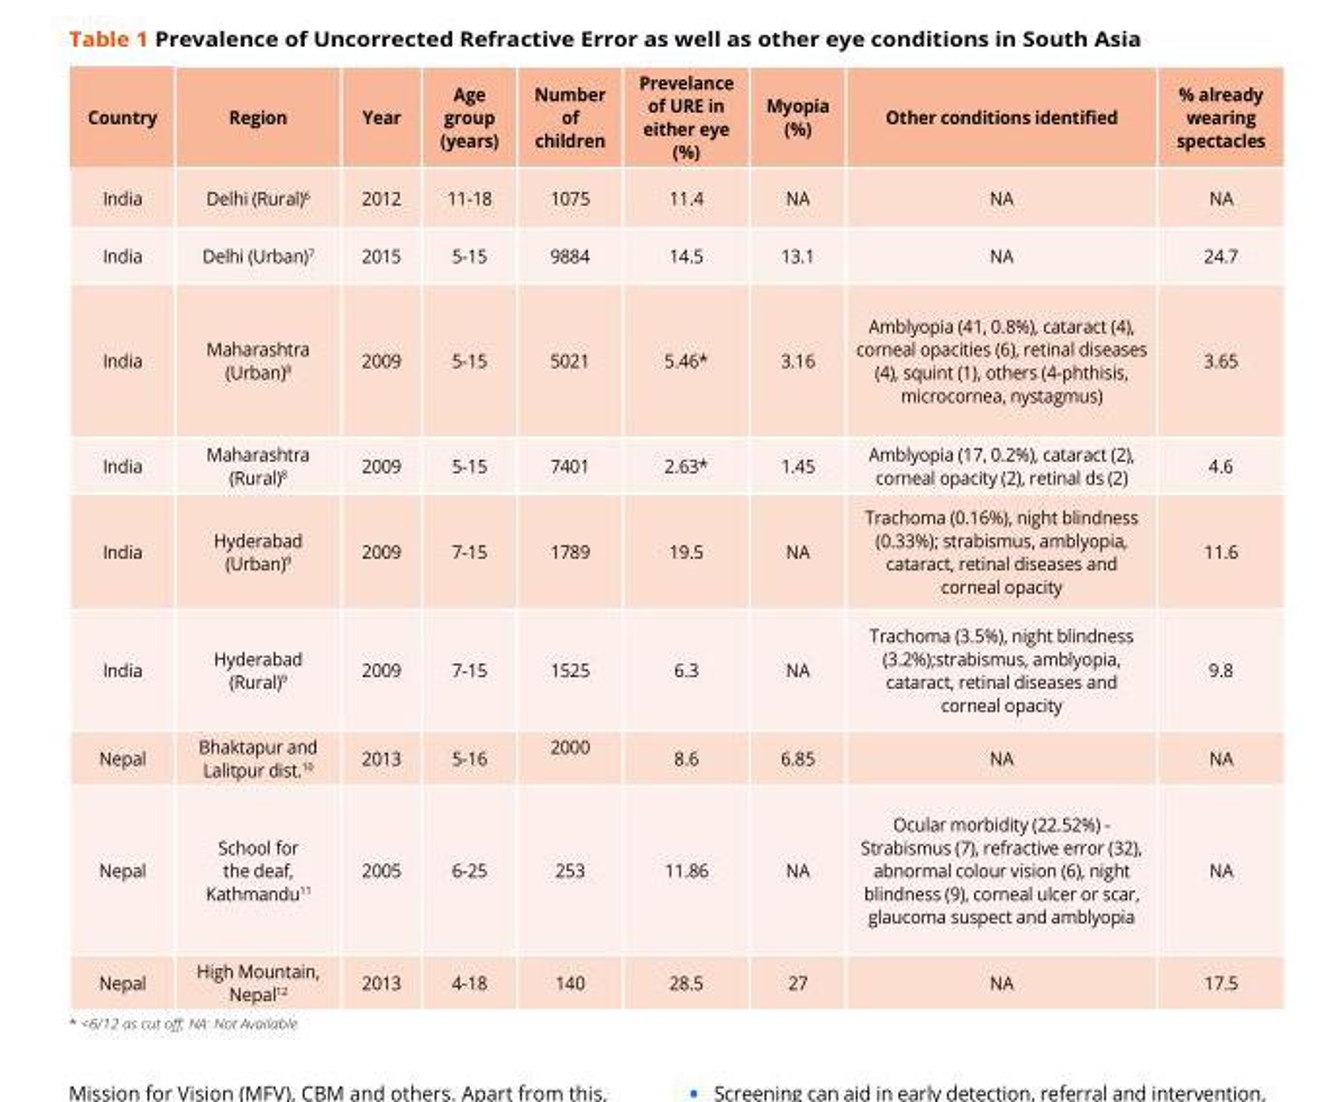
<table><thead><tr><td>Country</td><td>Region</td><td>Year</td><td>Age group (years)</td><td>Number of children</td><td>Prevelance of URE in either eye (%)</td><td>Myopia (%)</td><td>Other conditions identified</td><td>% already wearing spectacles</td></tr></thead><tbody><tr><td>India</td><td>Delhi (Rural)<sup>6</sup></td><td>2012</td><td>11-18</td><td>1075</td><td>11.4</td><td>NA</td><td>NA</td><td>NA</td></tr><tr><td>India</td><td>Delhi (Urban)<sup>7</sup></td><td>2015</td><td>5-15</td><td>9884</td><td>14.5</td><td>13.1</td><td>NA</td><td>24.7</td></tr><tr><td>India</td><td>Maharashtra (Urban)<sup>8</sup></td><td>2009</td><td>5-15</td><td>5021</td><td>5.46*</td><td>3.16</td><td>Amblyopia (41, 0.8%), cataract (4), corneal opacities (6), retinal diseases (4), squint (1), others (4-phthisis, microcornea, nystagmus)</td><td>3.65</td></tr><tr><td>India</td><td>Maharashtra (Rural)<sup>8</sup></td><td>2009</td><td>5-15</td><td>7401</td><td>2.63*</td><td>1.45</td><td>Amblyopia (17, 0.2%), cataract (2), corneal opacity (2), retinal ds (2)</td><td>4.6</td></tr><tr><td>India</td><td>Hyderabad (Urban)<sup>9</sup></td><td>2009</td><td>7-15</td><td>1789</td><td>19.5</td><td>NA</td><td>Trachoma (0.16%), night blindness (0.33%); strabismus, amblyopia, cataract, retinal diseases and corneal opacity</td><td>11.6</td></tr><tr><td>India</td><td>Hyderabad (Rural)<sup>9</sup></td><td>2009</td><td>7-15</td><td>1525</td><td>6.3</td><td>NA</td><td>Trachoma (3.5%), night blindness (3.2%);strabismus, amblyopia, cataract, retinal diseases and corneal opacity</td><td>9.8</td></tr><tr><td>Nepal</td><td>Bhaktapur and Lalitpur dist.<sup>10</sup></td><td>2013</td><td>5-16</td><td>2000</td><td>8.6</td><td>6.85</td><td>NA</td><td>NA</td></tr><tr><td>Nepal</td><td>School for the deaf, Kathmandu<sup>11</sup></td><td>2005</td><td>6-25</td><td>253</td><td>11.86</td><td>NA</td><td>Ocular morbidity (22.52%) - Strabismus (7), refractive error (32), abnormal colour vision (6), night blindness (9), corneal ulcer or scar, glaucoma suspect and amblyopia</td><td>NA</td></tr><tr><td>Nepal</td><td>High Mountain, Nepal<sup>12</sup></td><td>2013</td><td>4-18</td><td>140</td><td>28.5</td><td>27</td><td>NA</td><td>17.5</td></tr><tr><td colspan="9">* &lt;6/12 as cut off; NA: Not Available</td></tr></tbody></table>